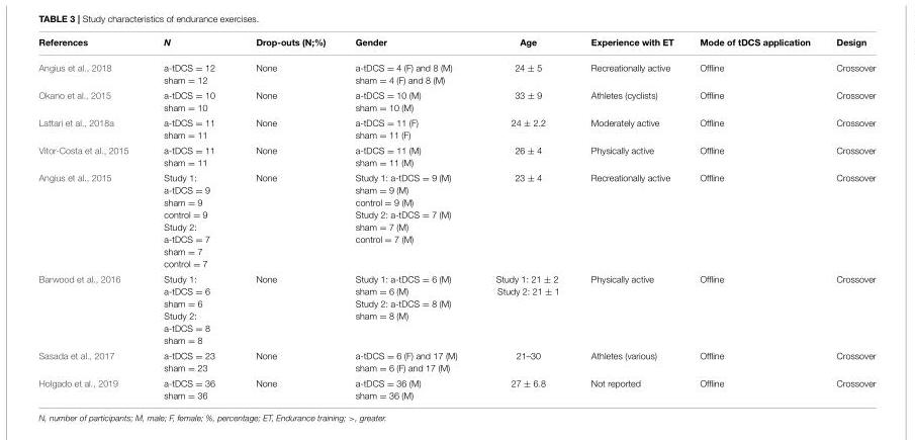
<table><thead><tr><td>References</td><td>N</td><td>Drop-outs (N;%)</td><td>Gender</td><td>Age</td><td>Experience with ET</td><td>Mode of tDCS application</td><td>Design</td></tr></thead><tbody><tr><td>Angius et al., 2018</td><td>a-tDCS = 12 sham = 12</td><td>None</td><td>a-tDCS = 4 (F) and 8 (M) sham = 4 (F) and 8 (M)</td><td>24 ± 5</td><td>Recreationally active</td><td>Offline</td><td>Crossover</td></tr><tr><td>Okano et al., 2015</td><td>a-tDCS = 10 sham = 10</td><td>None</td><td>a-tDCS = 10 (M) sham = 10 (M)</td><td>33 ± 9</td><td>Athletes (cyclists)</td><td>Offline</td><td>Crossover</td></tr><tr><td>Lattari et al., 2018a</td><td>a-tDCS = 11 sham = 11</td><td>None</td><td>a-tDCS = 11 (F) sham = 11 (F)</td><td>24 ± 2.2</td><td>Moderately active</td><td>Offline</td><td>Crossover</td></tr><tr><td>Vitor-Costa et al., 2015</td><td>a-tDCS = 11 sham = 11</td><td>None</td><td>a-tDCS = 11 (M) sham = 11 (M)</td><td>26 ± 4</td><td>Physically active</td><td>Offline</td><td>Crossover</td></tr><tr><td>Angius et al., 2015</td><td>Study 1: a-tDCS = 9 sham = 9 control = 9 Study 2: a-tDCS = 7 sham = 7 control = 7</td><td>None</td><td>Study 1: a-tDCS = 9 (M) sham = 9 (M) control = 9 (M) Study 2: a-tDCS = 7 (M) sham = 7 (M) control = 7 (M)</td><td>23 ± 4</td><td>Recreationally active</td><td>Offline</td><td>Crossover</td></tr><tr><td>Barwood et al., 2016</td><td>Study 1: a-tDCS = 6 sham = 6 Study 2: a-tDCS = 8 sham = 8</td><td>None</td><td>Study 1: a-tDCS = 6 (M) sham = 6 (M) Study 2: a-tDCS = 8 (M) sham = 8 (M)</td><td>Study 1: 21 ± 2 Study 2: 21 ± 1</td><td>Physically active</td><td>Offline</td><td>Crossover</td></tr><tr><td>Sasada et al., 2017</td><td>a-tDCS = 23 sham = 23</td><td>None</td><td>a-tDCS = 6 (F) and 17 (M) sham = 6 (F) and 17 (M)</td><td>21–30</td><td>Athletes (various)</td><td>Offline</td><td>Crossover</td></tr><tr><td>Holgado et al., 2019</td><td>a-tDCS = 36 sham = 36</td><td>None</td><td>a-tDCS = 36 (M) sham = 36 (M)</td><td>27 ± 6.8</td><td>Not reported</td><td>Offline</td><td>Crossover</td></tr></tbody></table>